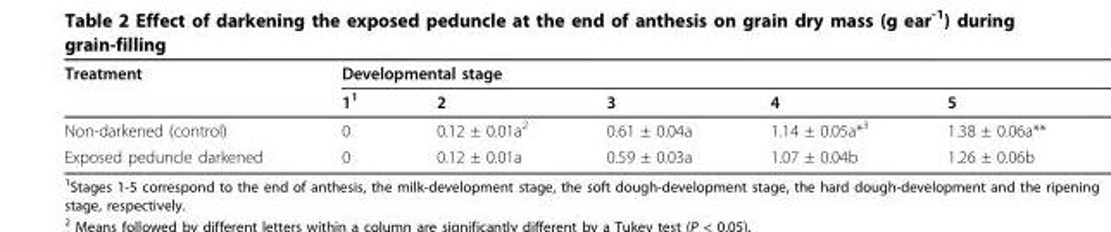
<table><thead><tr><td rowspan="2">Treatment</td><td colspan="5">Developmental stage</td></tr><tr><td>1<sup>1</sup></td><td>2</td><td>3</td><td>4</td><td>5</td></tr></thead><tbody><tr><td>Non-darkened (control)</td><td>0</td><td>0.12 ± 0.01a<sup>2</sup></td><td>0.61 ± 0.04a</td><td>1.14 ± 0.05a*<sup>3</sup></td><td>1.38 ± 0.06a**</td></tr><tr><td>Exposed peduncle darkened</td><td>0</td><td>0.12 ± 0.01a</td><td>0.59 ± 0.03a</td><td>1.07 ± 0.04b</td><td>1.26 ± 0.06b</td></tr></tbody></table>